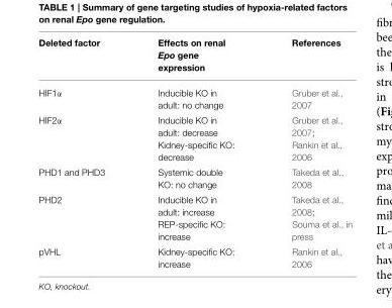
<table><thead><tr><td>Deleted factor</td><td>Effects on renal Epo gene expression</td><td>References</td></tr></thead><tbody><tr><td>HIF1α</td><td>Inducible KO in adult: no change</td><td>Gruber et al., 2007</td></tr><tr><td>HIF2α</td><td>Inducible KO in adult: decrease Kidney-specific KO: decrease</td><td>Gruber et al., 2007; Rankin et al., 2006</td></tr><tr><td>PHD1 and PHD3</td><td>Systemic double KO: no change</td><td>Takeda et al., 2008</td></tr><tr><td>PHD2</td><td>Inducible KO in adult: increase REP-specific KO: increase</td><td>Takeda et al., 2008; Souma et al., in press</td></tr><tr><td>pVHL</td><td>Kidney-specific KO: increase</td><td>Rankin et al., 2006</td></tr></tbody></table>